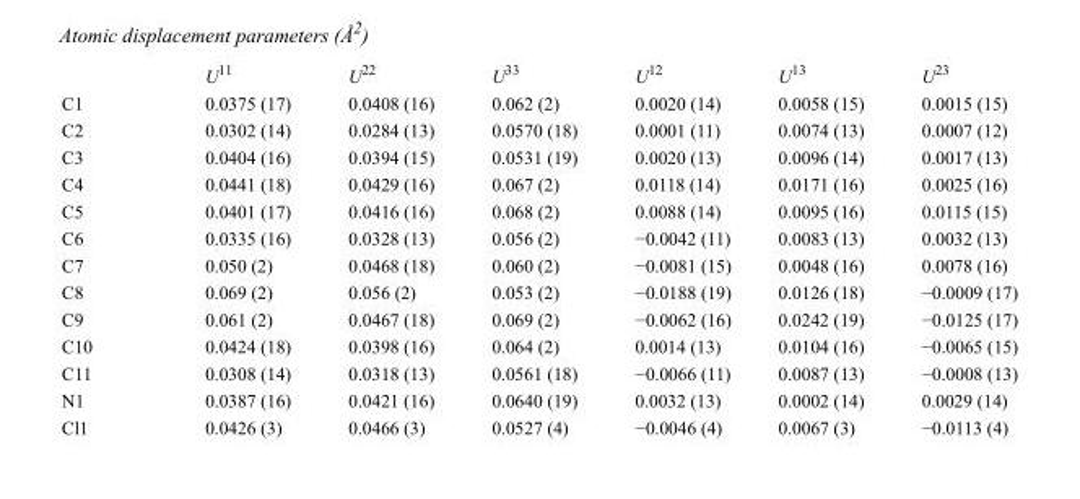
<table><thead><tr><td></td><td>U<sup>11</sup></td><td>U<sup>22</sup></td><td>U<sup>33</sup></td><td>U<sup>12</sup></td><td>U<sup>13</sup></td><td>U<sup>23</sup></td></tr></thead><tbody><tr><td>C1</td><td>0.0375 (17)</td><td>0.0408 (16)</td><td>0.062 (2)</td><td>0.0020 (14)</td><td>0.0058 (15)</td><td>0.0015 (15)</td></tr><tr><td>C2</td><td>0.0302 (14)</td><td>0.0284 (13)</td><td>0.0570 (18)</td><td>0.0001 (11)</td><td>0.0074 (13)</td><td>0.0007 (12)</td></tr><tr><td>C3</td><td>0.0404 (16)</td><td>0.0394 (15)</td><td>0.0531 (19)</td><td>0.0020 (13)</td><td>0.0096 (14)</td><td>0.0017 (13)</td></tr><tr><td>C4</td><td>0.0441 (18)</td><td>0.0429 (16)</td><td>0.067 (2)</td><td>0.0118 (14)</td><td>0.0171 (16)</td><td>0.0025 (16)</td></tr><tr><td>C5</td><td>0.0401 (17)</td><td>0.0416 (16)</td><td>0.068 (2)</td><td>0.0088 (14)</td><td>0.0095 (16)</td><td>0.0115 (15)</td></tr><tr><td>C6</td><td>0.0335 (16)</td><td>0.0328 (13)</td><td>0.056 (2)</td><td>−0.0042 (11)</td><td>0.0083 (13)</td><td>0.0032 (13)</td></tr><tr><td>C7</td><td>0.050 (2)</td><td>0.0468 (18)</td><td>0.060 (2)</td><td>−0.0081 (15)</td><td>0.0048 (16)</td><td>0.0078 (16)</td></tr><tr><td>C8</td><td>0.069 (2)</td><td>0.056 (2)</td><td>0.053 (2)</td><td>−0.0188 (19)</td><td>0.0126 (18)</td><td>−0.0009 (17)</td></tr><tr><td>C9</td><td>0.061 (2)</td><td>0.0467 (18)</td><td>0.069 (2)</td><td>−0.0062 (16)</td><td>0.0242 (19)</td><td>−0.0125 (17)</td></tr><tr><td>C10</td><td>0.0424 (18)</td><td>0.0398 (16)</td><td>0.064 (2)</td><td>0.0014 (13)</td><td>0.0104 (16)</td><td>−0.0065 (15)</td></tr><tr><td>C11</td><td>0.0308 (14)</td><td>0.0318 (13)</td><td>0.0561 (18)</td><td>−0.0066 (11)</td><td>0.0087 (13)</td><td>−0.0008 (13)</td></tr><tr><td>N1</td><td>0.0387 (16)</td><td>0.0421 (16)</td><td>0.0640 (19)</td><td>0.0032 (13)</td><td>0.0002 (14)</td><td>0.0029 (14)</td></tr><tr><td>Cl1</td><td>0.0426 (3)</td><td>0.0466 (3)</td><td>0.0527 (4)</td><td>−0.0046 (4)</td><td>0.0067 (3)</td><td>−0.0113 (4)</td></tr></tbody></table>